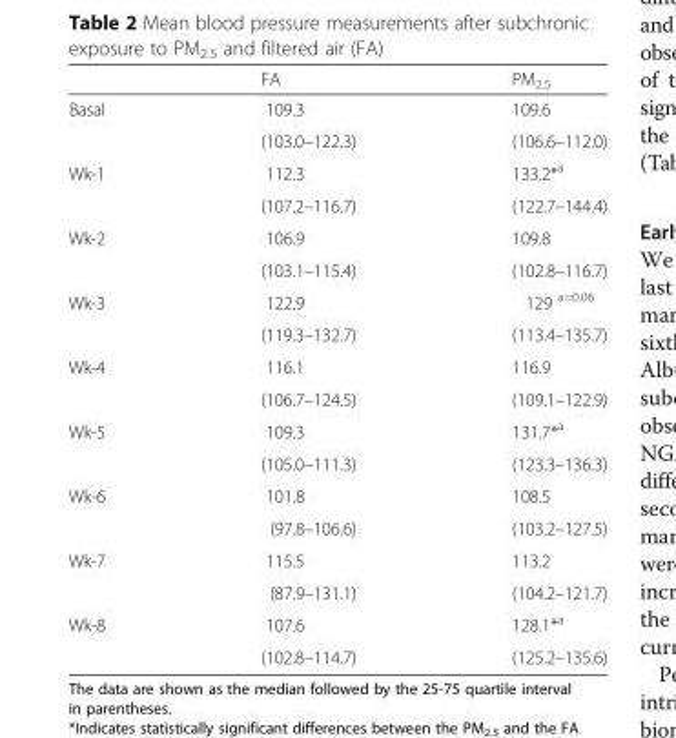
<table><thead><tr><td></td><td>FA</td><td>PM<sub>2.5</sub></td></tr></thead><tbody><tr><td rowspan="2">Basal</td><td>109.3</td><td>109.6</td></tr><tr><td>(103.0–122.3)</td><td>(106.6–112.0)</td></tr><tr><td rowspan="2">Wk-1</td><td>112.3</td><td>133.2*<sup>a</sup></td></tr><tr><td>(107.2–116.7)</td><td>(122.7–144.4)</td></tr><tr><td rowspan="2">Wk-2</td><td>106.9</td><td>109.8</td></tr><tr><td>(103.1–115.4)</td><td>(102.8–116.7)</td></tr><tr><td rowspan="2">Wk-3</td><td>122.9</td><td>129 <sup>a=0.06</sup></td></tr><tr><td>(119.3–132.7)</td><td>(113.4–135.7)</td></tr><tr><td rowspan="2">Wk-4</td><td>116.1</td><td>116.9</td></tr><tr><td>(106.7–124.5)</td><td>(109.1–122.9)</td></tr><tr><td rowspan="2">Wk-5</td><td>109.3</td><td>131.7*<sup>a</sup></td></tr><tr><td>(105.0–111.3)</td><td>(123.3–136.3)</td></tr><tr><td rowspan="2">Wk-6</td><td>101.8</td><td>108.5</td></tr><tr><td>(97.8–106.6)</td><td>(103.2–127.5)</td></tr><tr><td rowspan="2">Wk-7</td><td>115.5</td><td>113.2</td></tr><tr><td>(87.9–131.1)</td><td>(104.2–121.7)</td></tr><tr><td rowspan="2">Wk-8</td><td>107.6</td><td>128.1*<sup>a</sup></td></tr><tr><td>(102.8–114.7)</td><td>(125.2–135.6)</td></tr></tbody></table>